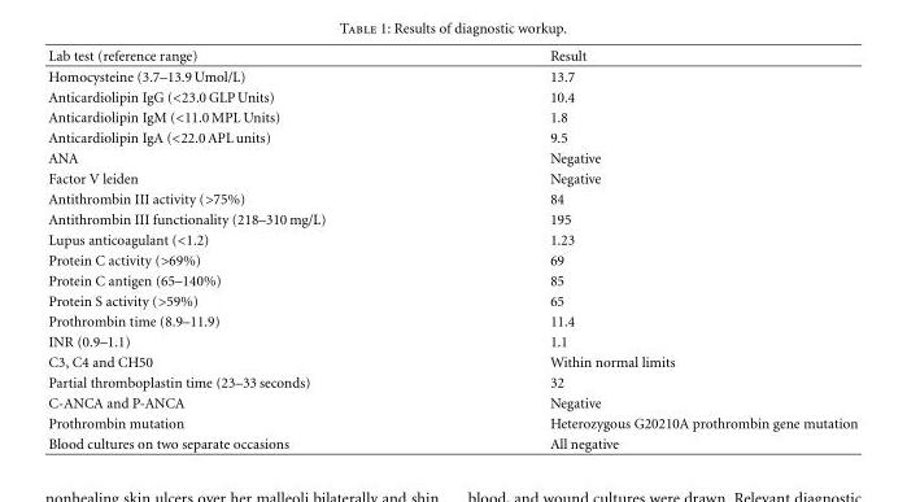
<table><thead><tr><td>Lab test (reference range)</td><td>Result</td></tr></thead><tbody><tr><td>Homocysteine (3.7–13.9 Umol/L)</td><td>13.7</td></tr><tr><td>Anticardiolipin IgG (&lt;23.0 GLP Units)</td><td>10.4</td></tr><tr><td>Anticardiolipin IgM (&lt;11.0 MPL Units)</td><td>1.8</td></tr><tr><td>Anticardiolipin IgA (&lt;22.0 APL units)</td><td>9.5</td></tr><tr><td>ANA</td><td>Negative</td></tr><tr><td>Factor V leiden</td><td>Negative</td></tr><tr><td>Antithrombin III activity (&gt;75%)</td><td>84</td></tr><tr><td>Antithrombin III functionality (218–310 mg/L)</td><td>195</td></tr><tr><td>Lupus anticoagulant (&lt;1.2)</td><td>1.23</td></tr><tr><td>Protein C activity (&gt;69%)</td><td>69</td></tr><tr><td>Protein C antigen (65–140%)</td><td>85</td></tr><tr><td>Protein S activity (&gt;59%)</td><td>65</td></tr><tr><td>Prothrombin time (8.9–11.9)</td><td>11.4</td></tr><tr><td>INR (0.9–1.1)</td><td>1.1</td></tr><tr><td>C3, C4 and CH50</td><td>Within normal limits</td></tr><tr><td>Partial thromboplastin time (23–33 seconds)</td><td>32</td></tr><tr><td>C-ANCA and P-ANCA</td><td>Negative</td></tr><tr><td>Prothrombin mutation</td><td>Heterozygous G20210A prothrombin gene mutation</td></tr><tr><td>Blood cultures on two separate occasions</td><td>All negative</td></tr></tbody></table>